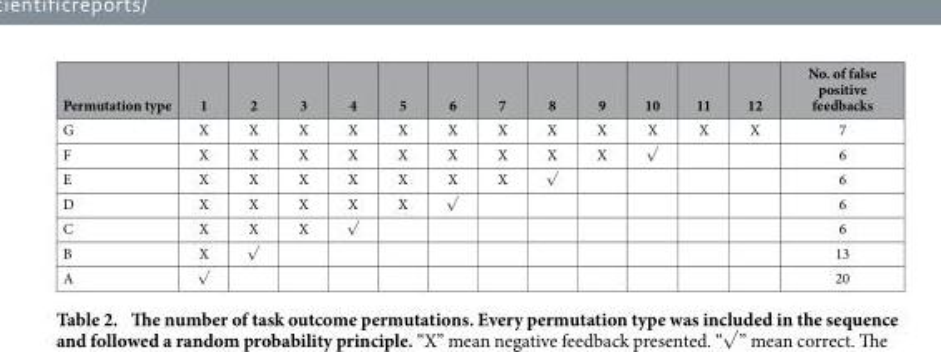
<table><thead><tr><td>Permutation type</td><td>1</td><td>2</td><td>3</td><td>4</td><td>5</td><td>6</td><td>7</td><td>8</td><td>9</td><td>10</td><td>11</td><td>12</td><td>No. of false positive feedbacks</td></tr></thead><tbody><tr><td>G</td><td>X</td><td>X</td><td>X</td><td>X</td><td>X</td><td>X</td><td>X</td><td>X</td><td>X</td><td>X</td><td>X</td><td>X</td><td>7</td></tr><tr><td>F</td><td>X</td><td>X</td><td>X</td><td>X</td><td>X</td><td>X</td><td>X</td><td>X</td><td>X</td><td>√</td><td></td><td></td><td>6</td></tr><tr><td>E</td><td>X</td><td>X</td><td>X</td><td>X</td><td>X</td><td>X</td><td>X</td><td>√</td><td></td><td></td><td></td><td></td><td>6</td></tr><tr><td>D</td><td>X</td><td>X</td><td>X</td><td>X</td><td>X</td><td>√</td><td></td><td></td><td></td><td></td><td></td><td></td><td>6</td></tr><tr><td>C</td><td>X</td><td>X</td><td>X</td><td>√</td><td></td><td></td><td></td><td></td><td></td><td></td><td></td><td></td><td>6</td></tr><tr><td>B</td><td>X</td><td>√</td><td></td><td></td><td></td><td></td><td></td><td></td><td></td><td></td><td></td><td></td><td>13</td></tr><tr><td>A</td><td>√</td><td></td><td></td><td></td><td></td><td></td><td></td><td></td><td></td><td></td><td></td><td></td><td>20</td></tr></tbody></table>